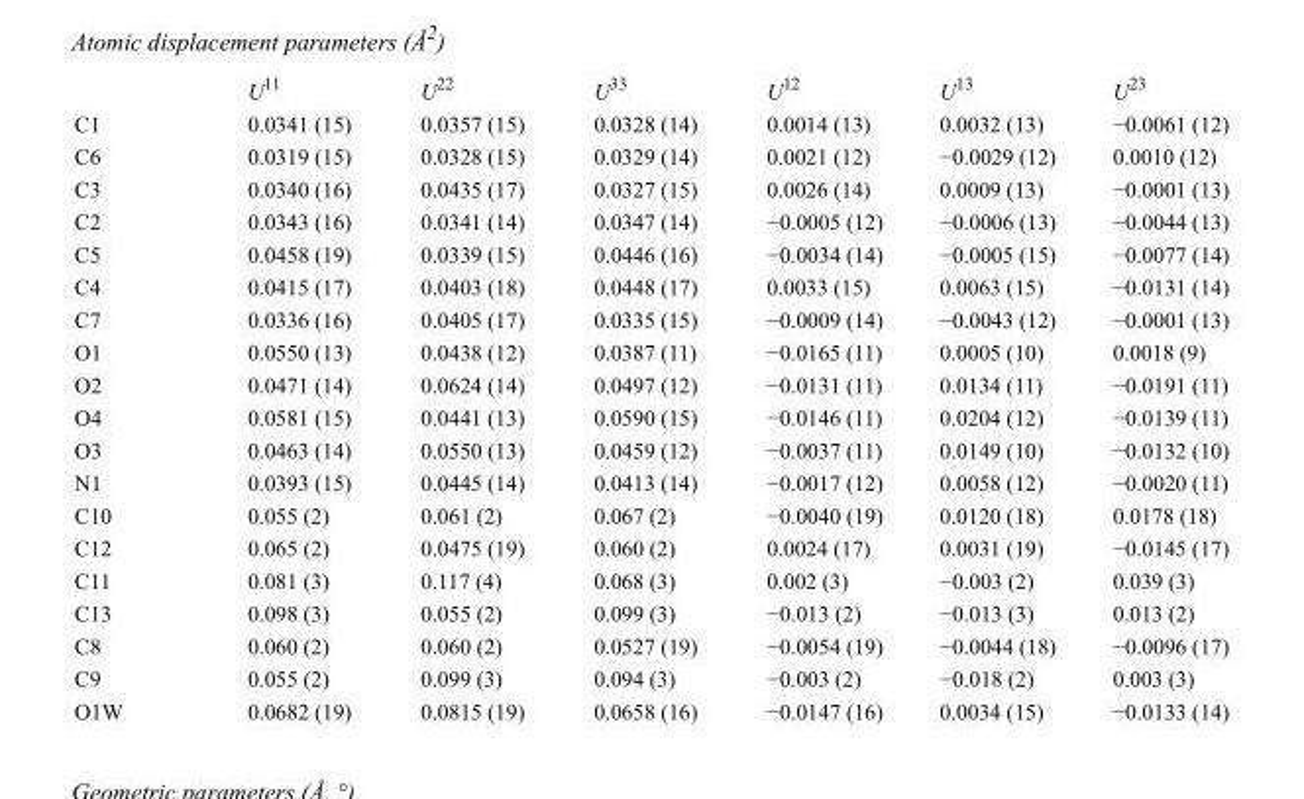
<table><thead><tr><td></td><td>U<sup>11</sup></td><td>U<sup>22</sup></td><td>U<sup>33</sup></td><td>U<sup>12</sup></td><td>U<sup>13</sup></td><td>U<sup>23</sup></td></tr></thead><tbody><tr><td>C1</td><td>0.0341 (15)</td><td>0.0357 (15)</td><td>0.0328 (14)</td><td>0.0014 (13)</td><td>0.0032 (13)</td><td>−0.0061 (12)</td></tr><tr><td>C6</td><td>0.0319 (15)</td><td>0.0328 (15)</td><td>0.0329 (14)</td><td>0.0021 (12)</td><td>−0.0029 (12)</td><td>0.0010 (12)</td></tr><tr><td>C3</td><td>0.0340 (16)</td><td>0.0435 (17)</td><td>0.0327 (15)</td><td>0.0026 (14)</td><td>0.0009 (13)</td><td>−0.0001 (13)</td></tr><tr><td>C2</td><td>0.0343 (16)</td><td>0.0341 (14)</td><td>0.0347 (14)</td><td>−0.0005 (12)</td><td>−0.0006 (13)</td><td>−0.0044 (13)</td></tr><tr><td>C5</td><td>0.0458 (19)</td><td>0.0339 (15)</td><td>0.0446 (16)</td><td>−0.0034 (14)</td><td>−0.0005 (15)</td><td>−0.0077 (14)</td></tr><tr><td>C4</td><td>0.0415 (17)</td><td>0.0403 (18)</td><td>0.0448 (17)</td><td>0.0033 (15)</td><td>0.0063 (15)</td><td>−0.0131 (14)</td></tr><tr><td>C7</td><td>0.0336 (16)</td><td>0.0405 (17)</td><td>0.0335 (15)</td><td>−0.0009 (14)</td><td>−0.0043 (12)</td><td>−0.0001 (13)</td></tr><tr><td>O1</td><td>0.0550 (13)</td><td>0.0438 (12)</td><td>0.0387 (11)</td><td>−0.0165 (11)</td><td>0.0005 (10)</td><td>0.0018 (9)</td></tr><tr><td>O2</td><td>0.0471 (14)</td><td>0.0624 (14)</td><td>0.0497 (12)</td><td>−0.0131 (11)</td><td>0.0134 (11)</td><td>−0.0191 (11)</td></tr><tr><td>O4</td><td>0.0581 (15)</td><td>0.0441 (13)</td><td>0.0590 (15)</td><td>−0.0146 (11)</td><td>0.0204 (12)</td><td>−0.0139 (11)</td></tr><tr><td>O3</td><td>0.0463 (14)</td><td>0.0550 (13)</td><td>0.0459 (12)</td><td>−0.0037 (11)</td><td>0.0149 (10)</td><td>−0.0132 (10)</td></tr><tr><td>N1</td><td>0.0393 (15)</td><td>0.0445 (14)</td><td>0.0413 (14)</td><td>−0.0017 (12)</td><td>0.0058 (12)</td><td>−0.0020 (11)</td></tr><tr><td>C10</td><td>0.055 (2)</td><td>0.061 (2)</td><td>0.067 (2)</td><td>−0.0040 (19)</td><td>0.0120 (18)</td><td>0.0178 (18)</td></tr><tr><td>C12</td><td>0.065 (2)</td><td>0.0475 (19)</td><td>0.060 (2)</td><td>0.0024 (17)</td><td>0.0031 (19)</td><td>−0.0145 (17)</td></tr><tr><td>C11</td><td>0.081 (3)</td><td>0.117 (4)</td><td>0.068 (3)</td><td>0.002 (3)</td><td>−0.003 (2)</td><td>0.039 (3)</td></tr><tr><td>C13</td><td>0.098 (3)</td><td>0.055 (2)</td><td>0.099 (3)</td><td>−0.013 (2)</td><td>−0.013 (3)</td><td>0.013 (2)</td></tr><tr><td>C8</td><td>0.060 (2)</td><td>0.060 (2)</td><td>0.0527 (19)</td><td>−0.0054 (19)</td><td>−0.0044 (18)</td><td>−0.0096 (17)</td></tr><tr><td>C9</td><td>0.055 (2)</td><td>0.099 (3)</td><td>0.094 (3)</td><td>−0.003 (2)</td><td>−0.018 (2)</td><td>0.003 (3)</td></tr><tr><td>O1W</td><td>0.0682 (19)</td><td>0.0815 (19)</td><td>0.0658 (16)</td><td>−0.0147 (16)</td><td>0.0034 (15)</td><td>−0.0133 (14)</td></tr></tbody></table>